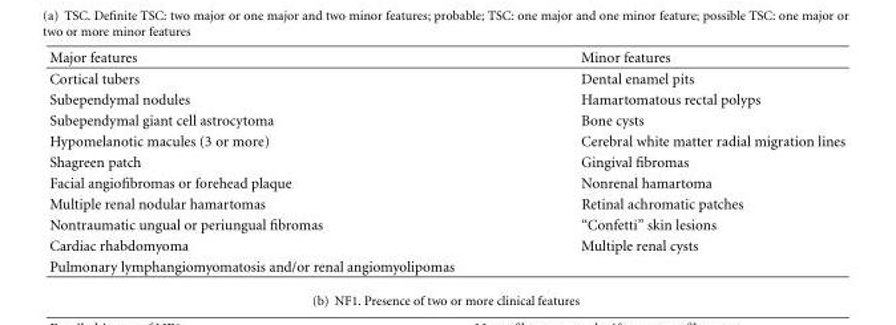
<table><thead><tr><td>Major features</td><td>Minor features</td></tr></thead><tbody><tr><td>Cortical tubers</td><td>Dental enamel pits</td></tr><tr><td>Subependymal nodules</td><td>Hamartomatous rectal polyps</td></tr><tr><td>Subependymal giant cell astrocytoma</td><td>Bone cysts</td></tr><tr><td>Hypomelanotic macules (3 or more)</td><td>Cerebral white matter radial migration lines</td></tr><tr><td>Shagreen patch</td><td>Gingival fibromas</td></tr><tr><td>Facial angiofibromas or forehead plaque</td><td>Nonrenal hamartoma</td></tr><tr><td>Multiple renal nodular hamartomas</td><td>Retinal achromatic patches</td></tr><tr><td>Nontraumatic ungual or periungual fibromas</td><td>“Confetti” skin lesions</td></tr><tr><td>Cardiac rhabdomyoma</td><td>Multiple renal cysts</td></tr><tr><td>Pulmonary lymphangiomyomatosis and/or renal angiomyolipomas</td><td></td></tr></tbody></table>